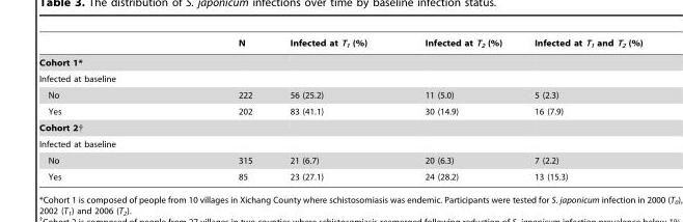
<table><thead><tr><td></td><td>N</td><td>Infected at T<sub>1</sub> (%)</td><td>Infected at T<sub>2</sub> (%)</td><td>Infected at T<sub>1</sub> and T<sub>2</sub> (%)</td></tr></thead><tbody><tr><td colspan="5">Cohort 1*</td></tr><tr><td colspan="5">Infected at baseline</td></tr><tr><td>No</td><td>222</td><td>56 (25.2)</td><td>11 (5.0)</td><td>5 (2.3)</td></tr><tr><td>Yes</td><td>202</td><td>83 (41.1)</td><td>30 (14.9)</td><td>16 (7.9)</td></tr><tr><td colspan="5">Cohort 2†</td></tr><tr><td colspan="5">Infected at baseline</td></tr><tr><td>No</td><td>315</td><td>21 (6.7)</td><td>20 (6.3)</td><td>7 (2.2)</td></tr><tr><td>Yes</td><td>85</td><td>23 (27.1)</td><td>24 (28.2)</td><td>13 (15.3)</td></tr></tbody></table>